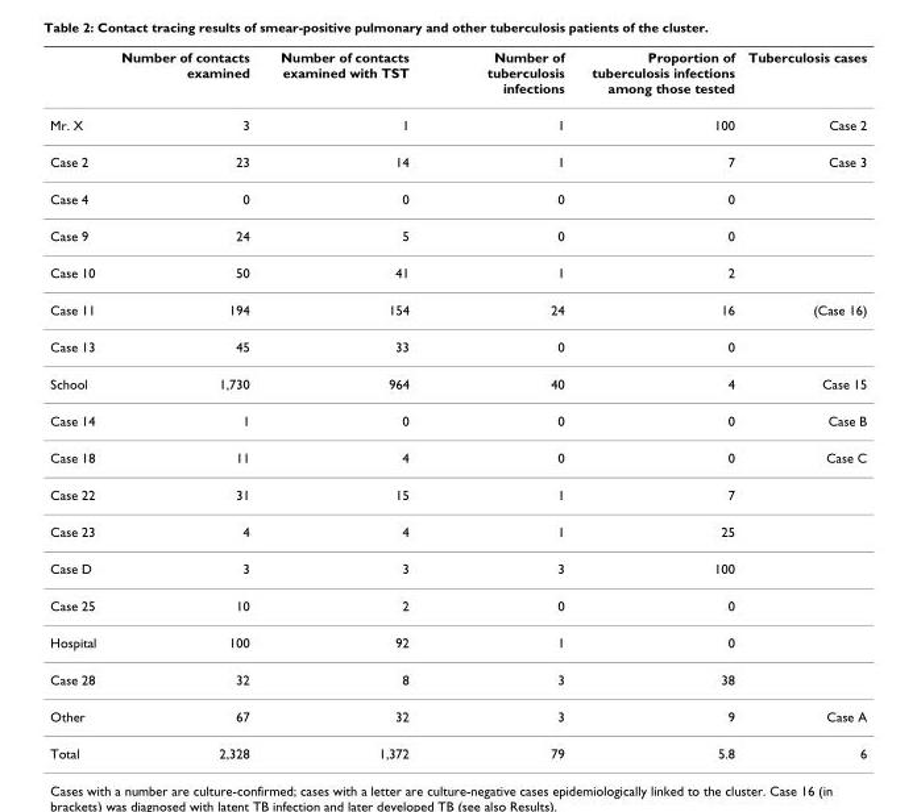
<table><thead><tr><td></td><td>Number of contacts examined</td><td>Number of contacts examined with TST</td><td>Number of tuberculosis infections</td><td>Proportion of tuberculosis infections among those tested</td><td>Tuberculosis cases</td></tr></thead><tbody><tr><td>Mr. X</td><td>3</td><td>1</td><td>1</td><td>100</td><td>Case 2</td></tr><tr><td>Case 2</td><td>23</td><td>14</td><td>1</td><td>7</td><td>Case 3</td></tr><tr><td>Case 4</td><td>0</td><td>0</td><td>0</td><td>0</td><td></td></tr><tr><td>Case 9</td><td>24</td><td>5</td><td>0</td><td>0</td><td></td></tr><tr><td>Case 10</td><td>50</td><td>41</td><td>1</td><td>2</td><td></td></tr><tr><td>Case 11</td><td>194</td><td>154</td><td>24</td><td>16</td><td>(Case 16)</td></tr><tr><td>Case 13</td><td>45</td><td>33</td><td>0</td><td>0</td><td></td></tr><tr><td>School</td><td>1,730</td><td>964</td><td>40</td><td>4</td><td>Case 15</td></tr><tr><td>Case 14</td><td>1</td><td>0</td><td>0</td><td>0</td><td>Case B</td></tr><tr><td>Case 18</td><td>11</td><td>4</td><td>0</td><td>0</td><td>Case C</td></tr><tr><td>Case 22</td><td>31</td><td>15</td><td>1</td><td>7</td><td></td></tr><tr><td>Case 23</td><td>4</td><td>4</td><td>1</td><td>25</td><td></td></tr><tr><td>Case D</td><td>3</td><td>3</td><td>3</td><td>100</td><td></td></tr><tr><td>Case 25</td><td>10</td><td>2</td><td>0</td><td>0</td><td></td></tr><tr><td>Hospital</td><td>100</td><td>92</td><td>1</td><td>0</td><td></td></tr><tr><td>Case 28</td><td>32</td><td>8</td><td>3</td><td>38</td><td></td></tr><tr><td>Other</td><td>67</td><td>32</td><td>3</td><td>9</td><td>Case A</td></tr><tr><td>Total</td><td>2,328</td><td>1,372</td><td>79</td><td>5.8</td><td>6</td></tr></tbody></table>